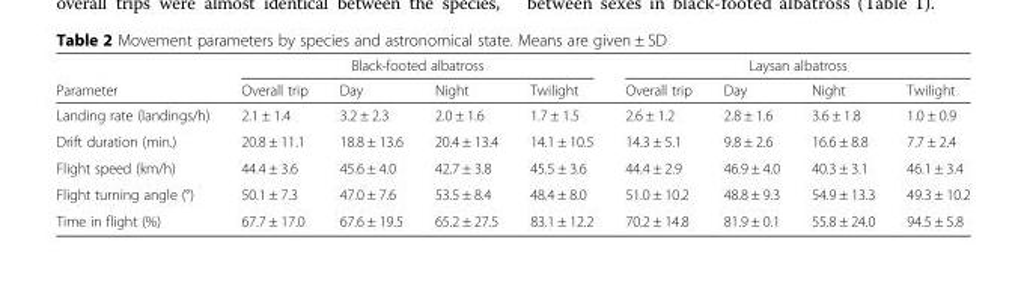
<table><thead><tr><td rowspan="2">Parameter</td><td colspan="4">Black-footed albatross</td><td colspan="4">Laysan albatross</td></tr><tr><td>Overall trip</td><td>Day</td><td>Night</td><td>Twilight</td><td>Overall trip</td><td>Day</td><td>Night</td><td>Twilight</td></tr></thead><tbody><tr><td>Landing rate (landings/h)</td><td>2.1 ± 1.4</td><td>3.2 ± 2.3</td><td>2.0 ± 1.6</td><td>1.7 ± 1.5</td><td>2.6 ± 1.2</td><td>2.8 ± 1.6</td><td>3.6 ± 1.8</td><td>1.0 ± 0.9</td></tr><tr><td>Drift duration (min.)</td><td>20.8 ± 11.1</td><td>18.8 ± 13.6</td><td>20.4 ± 13.4</td><td>14.1 ± 10.5</td><td>14.3 ± 5.1</td><td>9.8 ± 2.6</td><td>16.6 ± 8.8</td><td>7.7 ± 2.4</td></tr><tr><td>Flight speed (km/h)</td><td>44.4 ± 3.6</td><td>45.6 ± 4.0</td><td>42.7 ± 3.8</td><td>45.5 ± 3.6</td><td>44.4 ± 2.9</td><td>46.9 ± 4.0</td><td>40.3 ± 3.1</td><td>46.1 ± 3.4</td></tr><tr><td>Flight turning angle (°)</td><td>50.1 ± 7.3</td><td>47.0 ± 7.6</td><td>53.5 ± 8.4</td><td>48.4 ± 8.0</td><td>51.0 ± 10.2</td><td>48.8 ± 9.3</td><td>54.9 ± 13.3</td><td>49.3 ± 10.2</td></tr><tr><td>Time in flight (%)</td><td>67.7 ± 17.0</td><td>67.6 ± 19.5</td><td>65.2 ± 27.5</td><td>83.1 ± 12.2</td><td>70.2 ± 14.8</td><td>81.9 ± 0.1</td><td>55.8 ± 24.0</td><td>94.5 ± 5.8</td></tr></tbody></table>